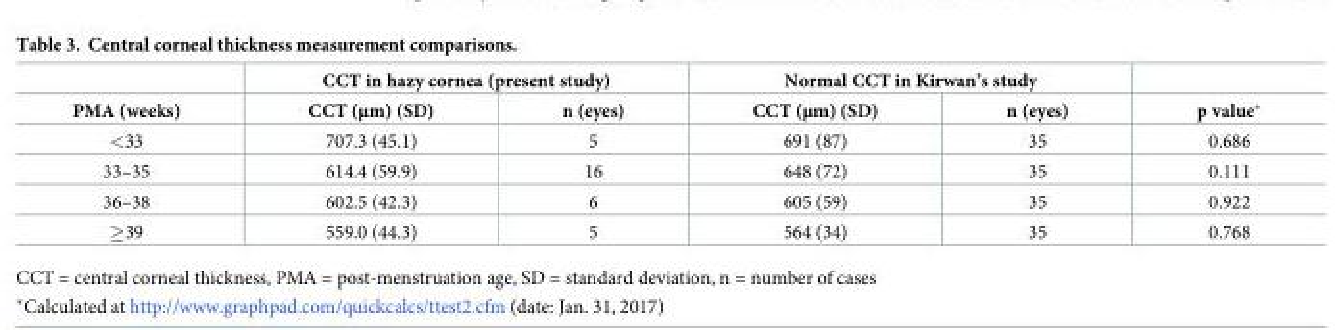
<table><thead><tr><td rowspan="2">PMA (weeks)</td><td colspan="2">CCT in hazy cornea (present study)</td><td colspan="2">Normal CCT in Kirwan’s study</td><td rowspan="2">p value*</td></tr><tr><td>CCT (μm) (SD)</td><td>n (eyes)</td><td>CCT (μm) (SD)</td><td>n (eyes)</td></tr></thead><tbody><tr><td>&lt;33</td><td>707.3 (45.1)</td><td>5</td><td>691 (87)</td><td>35</td><td>0.686</td></tr><tr><td>33–35</td><td>614.4 (59.9)</td><td>16</td><td>648 (72)</td><td>35</td><td>0.111</td></tr><tr><td>36–38</td><td>602.5 (42.3)</td><td>6</td><td>605 (59)</td><td>35</td><td>0.922</td></tr><tr><td>≥39</td><td>559.0 (44.3)</td><td>5</td><td>564 (34)</td><td>35</td><td>0.768</td></tr></tbody></table>